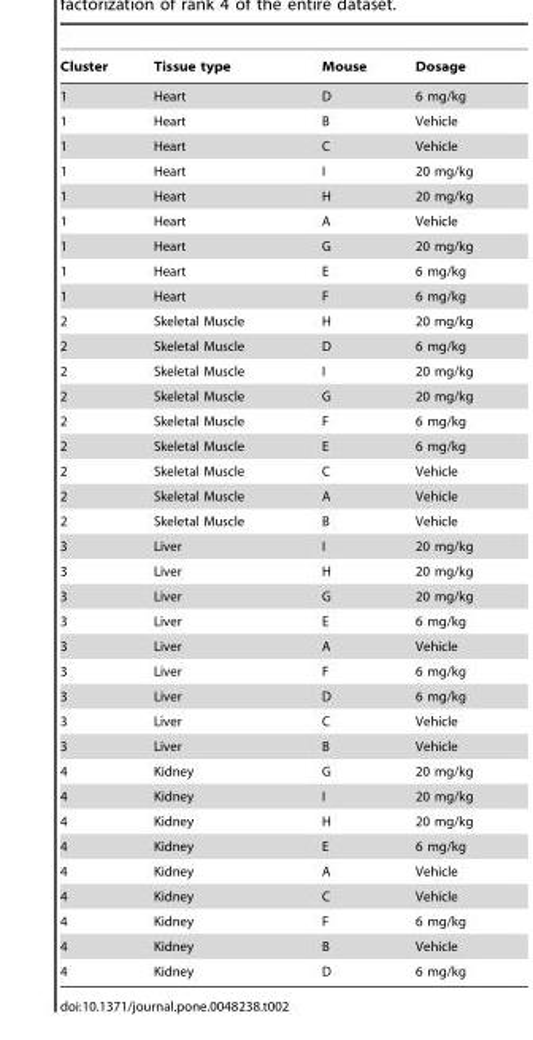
<table><thead><tr><td>Cluster</td><td>Tissue type</td><td>Mouse</td><td>Dosage</td></tr></thead><tbody><tr><td>1</td><td>Heart</td><td>D</td><td>6 mg/kg</td></tr><tr><td>1</td><td>Heart</td><td>B</td><td>Vehicle</td></tr><tr><td>1</td><td>Heart</td><td>C</td><td>Vehicle</td></tr><tr><td>1</td><td>Heart</td><td>I</td><td>20 mg/kg</td></tr><tr><td>1</td><td>Heart</td><td>H</td><td>20 mg/kg</td></tr><tr><td>1</td><td>Heart</td><td>A</td><td>Vehicle</td></tr><tr><td>1</td><td>Heart</td><td>G</td><td>20 mg/kg</td></tr><tr><td>1</td><td>Heart</td><td>E</td><td>6 mg/kg</td></tr><tr><td>1</td><td>Heart</td><td>F</td><td>6 mg/kg</td></tr><tr><td>2</td><td>Skeletal Muscle</td><td>H</td><td>20 mg/kg</td></tr><tr><td>2</td><td>Skeletal Muscle</td><td>D</td><td>6 mg/kg</td></tr><tr><td>2</td><td>Skeletal Muscle</td><td>I</td><td>20 mg/kg</td></tr><tr><td>2</td><td>Skeletal Muscle</td><td>G</td><td>20 mg/kg</td></tr><tr><td>2</td><td>Skeletal Muscle</td><td>F</td><td>6 mg/kg</td></tr><tr><td>2</td><td>Skeletal Muscle</td><td>E</td><td>6 mg/kg</td></tr><tr><td>2</td><td>Skeletal Muscle</td><td>C</td><td>Vehicle</td></tr><tr><td>2</td><td>Skeletal Muscle</td><td>A</td><td>Vehicle</td></tr><tr><td>2</td><td>Skeletal Muscle</td><td>B</td><td>Vehicle</td></tr><tr><td>3</td><td>Liver</td><td>I</td><td>20 mg/kg</td></tr><tr><td>3</td><td>Liver</td><td>H</td><td>20 mg/kg</td></tr><tr><td>3</td><td>Liver</td><td>G</td><td>20 mg/kg</td></tr><tr><td>3</td><td>Liver</td><td>E</td><td>6 mg/kg</td></tr><tr><td>3</td><td>Liver</td><td>A</td><td>Vehicle</td></tr><tr><td>3</td><td>Liver</td><td>F</td><td>6 mg/kg</td></tr><tr><td>3</td><td>Liver</td><td>D</td><td>6 mg/kg</td></tr><tr><td>3</td><td>Liver</td><td>C</td><td>Vehicle</td></tr><tr><td>3</td><td>Liver</td><td>B</td><td>Vehicle</td></tr><tr><td>4</td><td>Kidney</td><td>G</td><td>20 mg/kg</td></tr><tr><td>4</td><td>Kidney</td><td>I</td><td>20 mg/kg</td></tr><tr><td>4</td><td>Kidney</td><td>H</td><td>20 mg/kg</td></tr><tr><td>4</td><td>Kidney</td><td>E</td><td>6 mg/kg</td></tr><tr><td>4</td><td>Kidney</td><td>A</td><td>Vehicle</td></tr><tr><td>4</td><td>Kidney</td><td>C</td><td>Vehicle</td></tr><tr><td>4</td><td>Kidney</td><td>F</td><td>6 mg/kg</td></tr><tr><td>4</td><td>Kidney</td><td>B</td><td>Vehicle</td></tr><tr><td>4</td><td>Kidney</td><td>D</td><td>6 mg/kg</td></tr></tbody></table>